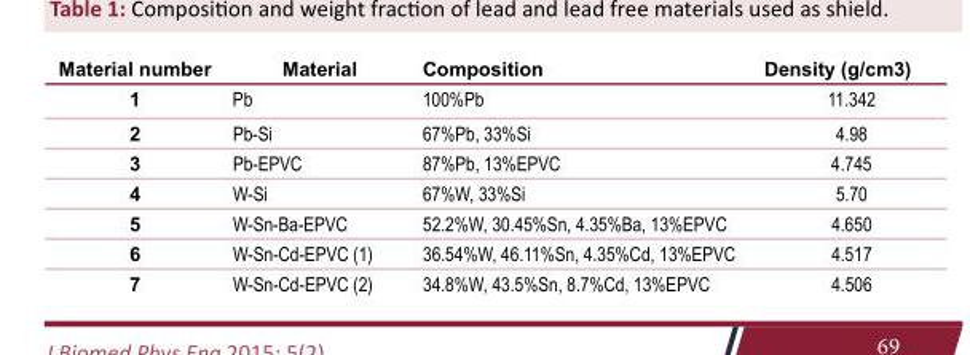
<table><thead><tr><td>Material number</td><td>Material</td><td>Composition</td><td>Density (g/cm<sup>3</sup>)</td></tr></thead><tbody><tr><td>1</td><td>Pb</td><td>100%Pb</td><td>11.342</td></tr><tr><td>2</td><td>Pb-Si</td><td>67%Pb, 33%Si</td><td>4.98</td></tr><tr><td>3</td><td>Pb-EPVC</td><td>87%Pb, 13%EPVC</td><td>4.745</td></tr><tr><td>4</td><td>W-Si</td><td>67%W, 33%Si</td><td>5.70</td></tr><tr><td>5</td><td>W-Sn-Ba-EPVC</td><td>52.2%W, 30.45%Sn, 4.35%Ba, 13%EPVC</td><td>4.650</td></tr><tr><td>6</td><td>W-Sn-Cd-EPVC (1)</td><td>36.54%W, 46.11%Sn, 4.35%Cd, 13%EPVC</td><td>4.517</td></tr><tr><td>7</td><td>W-Sn-Cd-EPVC (2)</td><td>34.8%W, 43.5%Sn, 8.7%Cd, 13%EPVC</td><td>4.506</td></tr></tbody></table>